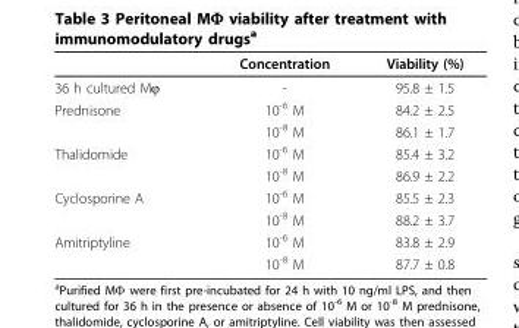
<table><thead><tr><td></td><td>Concentration</td><td>Viability (%)</td></tr></thead><tbody><tr><td>36 h cultured Mϕ</td><td>-</td><td>95.8 ± 1.5</td></tr><tr><td rowspan="2">Prednisone</td><td>10<sup>-6</sup> M</td><td>84.2 ± 2.5</td></tr><tr><td>10<sup>-8</sup> M</td><td>86.1 ± 1.7</td></tr><tr><td rowspan="2">Thalidomide</td><td>10<sup>-6</sup> M</td><td>85.4 ± 3.2</td></tr><tr><td>10<sup>-8</sup> M</td><td>86.9 ± 2.2</td></tr><tr><td rowspan="2">Cyclosporine A</td><td>10<sup>-6</sup> M</td><td>85.5 ± 2.3</td></tr><tr><td>10<sup>-8</sup> M</td><td>88.2 ± 3.7</td></tr><tr><td rowspan="2">Amitriptyline</td><td>10<sup>-6</sup> M</td><td>83.8 ± 2.9</td></tr><tr><td>10<sup>-8</sup> M</td><td>87.7 ± 0.8</td></tr></tbody></table>